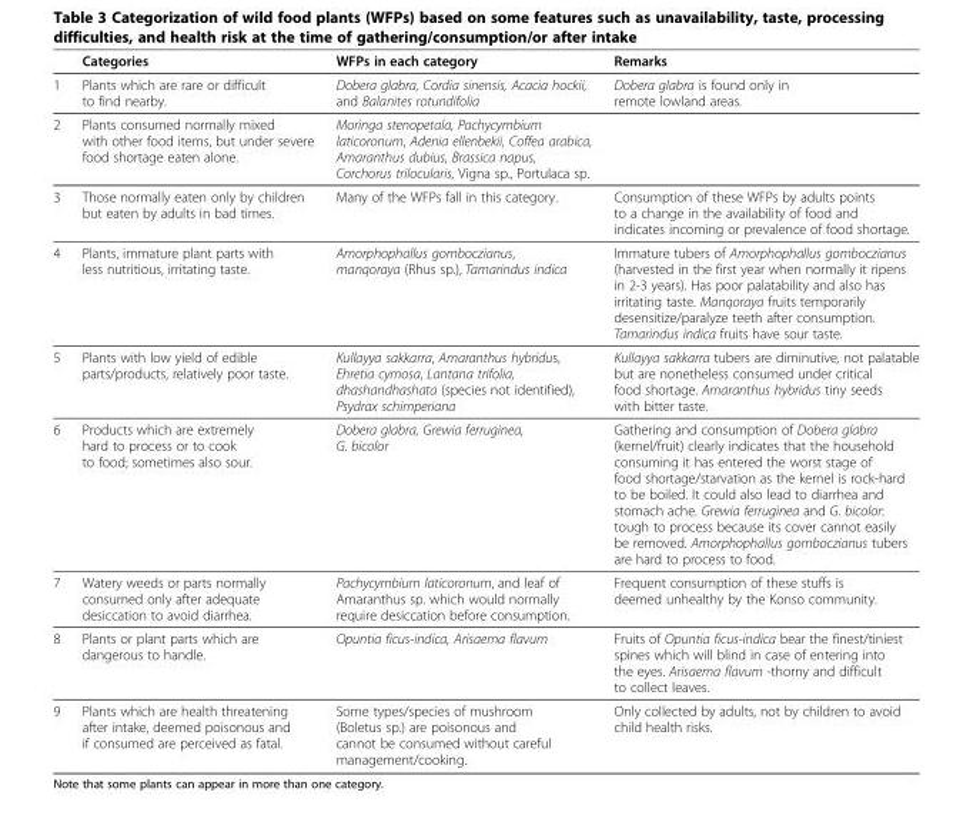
<table><thead><tr><td></td><td>Categories</td><td>WFPs in each category</td><td>Remarks</td></tr></thead><tbody><tr><td>1</td><td>Plants which are rare or difficult to find nearby.</td><td>Dobera glabra, Cordia sinensis, Acacia hockii, and Balanites rotundifolia</td><td>Dobera glabra is found only in remote lowland areas.</td></tr><tr><td>2</td><td>Plants consumed normally mixed with other food items, but under severe food shortage eaten alone.</td><td>Moringa stenopetala, Pachycymbium laticoronum, Adenia ellenbekii, Coffea arabica, Amaranthus dubius, Brassica napus, Corchorus trilocularis, Vigna sp., Portulaca sp.</td><td></td></tr><tr><td>3</td><td>Those normally eaten only by children but eaten by adults in bad times.</td><td>Many of the WFPs fall in this category.</td><td>Consumption of these WFPs by adults points to a change in the availability of food and indicates incoming or prevalence of food shortage.</td></tr><tr><td>4</td><td>Plants, immature plant parts with less nutritious, irritating taste.</td><td>Amorphophallus gomboczianus, manqoraya (Rhus sp.), Tamarindus indica</td><td>Immature tubers of Amorphophallus gomboczianus (harvested in the first year when normally it ripens in 2-3 years). Has poor palatability and also has irritating taste. Manqoraya fruits temporarily desensitize/paralyze teeth after consumption. Tamarindus indica fruits have sour taste.</td></tr><tr><td>5</td><td>Plants with low yield of edible parts/products, relatively poor taste.</td><td>Kullayya sakkarra, Amaranthus hybridus, Ehretia cymosa, Lantana trifolia, dhashandhashata (species not identified), Psydrax schimperiana</td><td>Kullayya sakkarra tubers are diminutive, not palatable but are nonetheless consumed under critical food shortage. Amaranthus hybridus tiny seeds with bitter taste.</td></tr><tr><td>6</td><td>Products which are extremely hard to process or to cook to food; sometimes also sour.</td><td>Dobera glabra, Grewia ferruginea, G. bicolor</td><td>Gathering and consumption of Dobera glabra (kernel/fruit) clearly indicates that the household consuming it has entered the worst stage of food shortage/starvation as the kernel is rock-hard to be boiled. It could also lead to diarrhea and stomach ache. Grewia ferruginea and G. bicolor: tough to process because its cover cannot easily be removed. Amorphophallus gomboczianus tubers are hard to process to food.</td></tr><tr><td>7</td><td>Watery weeds or parts normally consumed only after adequate desiccation to avoid diarrhea.</td><td>Pachycymbium laticoronum, and leaf of Amaranthus sp. which would normally require desiccation before consumption.</td><td>Frequent consumption of these stuffs is deemed unhealthy by the Konso community.</td></tr><tr><td>8</td><td>Plants or plant parts which are dangerous to handle.</td><td>Opuntia ficus-indica, Arisaema flavum</td><td>Fruits of Opuntia ficus-indica bear the finest/tiniest spines which will blind in case of entering into the eyes. Arisaema flavum -thorny and difficult to collect leaves.</td></tr><tr><td>9</td><td>Plants which are health threatening after intake, deemed poisonous and if consumed are perceived as fatal.</td><td>Some types/species of mushroom (Boletus sp.) are poisonous and cannot be consumed without careful management/cooking.</td><td>Only collected by adults, not by children to avoid child health risks.</td></tr></tbody></table>